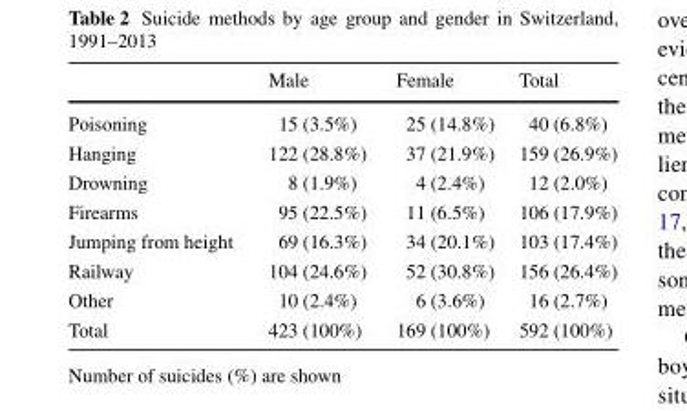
<table><thead><tr><td></td><td>Male</td><td>Female</td><td>Total</td></tr></thead><tbody><tr><td>Poisoning</td><td>15 (3.5%)</td><td>25 (14.8%)</td><td>40 (6.8%)</td></tr><tr><td>Hanging</td><td>122 (28.8%)</td><td>37 (21.9%)</td><td>159 (26.9%)</td></tr><tr><td>Drowning</td><td>8 (1.9%)</td><td>4 (2.4%)</td><td>12 (2.0%)</td></tr><tr><td>Firearms</td><td>95 (22.5%)</td><td>11 (6.5%)</td><td>106 (17.9%)</td></tr><tr><td>Jumping from height</td><td>69 (16.3%)</td><td>34 (20.1%)</td><td>103 (17.4%)</td></tr><tr><td>Railway</td><td>104 (24.6%)</td><td>52 (30.8%)</td><td>156 (26.4%)</td></tr><tr><td>Other</td><td>10 (2.4%)</td><td>6 (3.6%)</td><td>16 (2.7%)</td></tr><tr><td>Total</td><td>423 (100%)</td><td>169 (100%)</td><td>592 (100%)</td></tr></tbody></table>